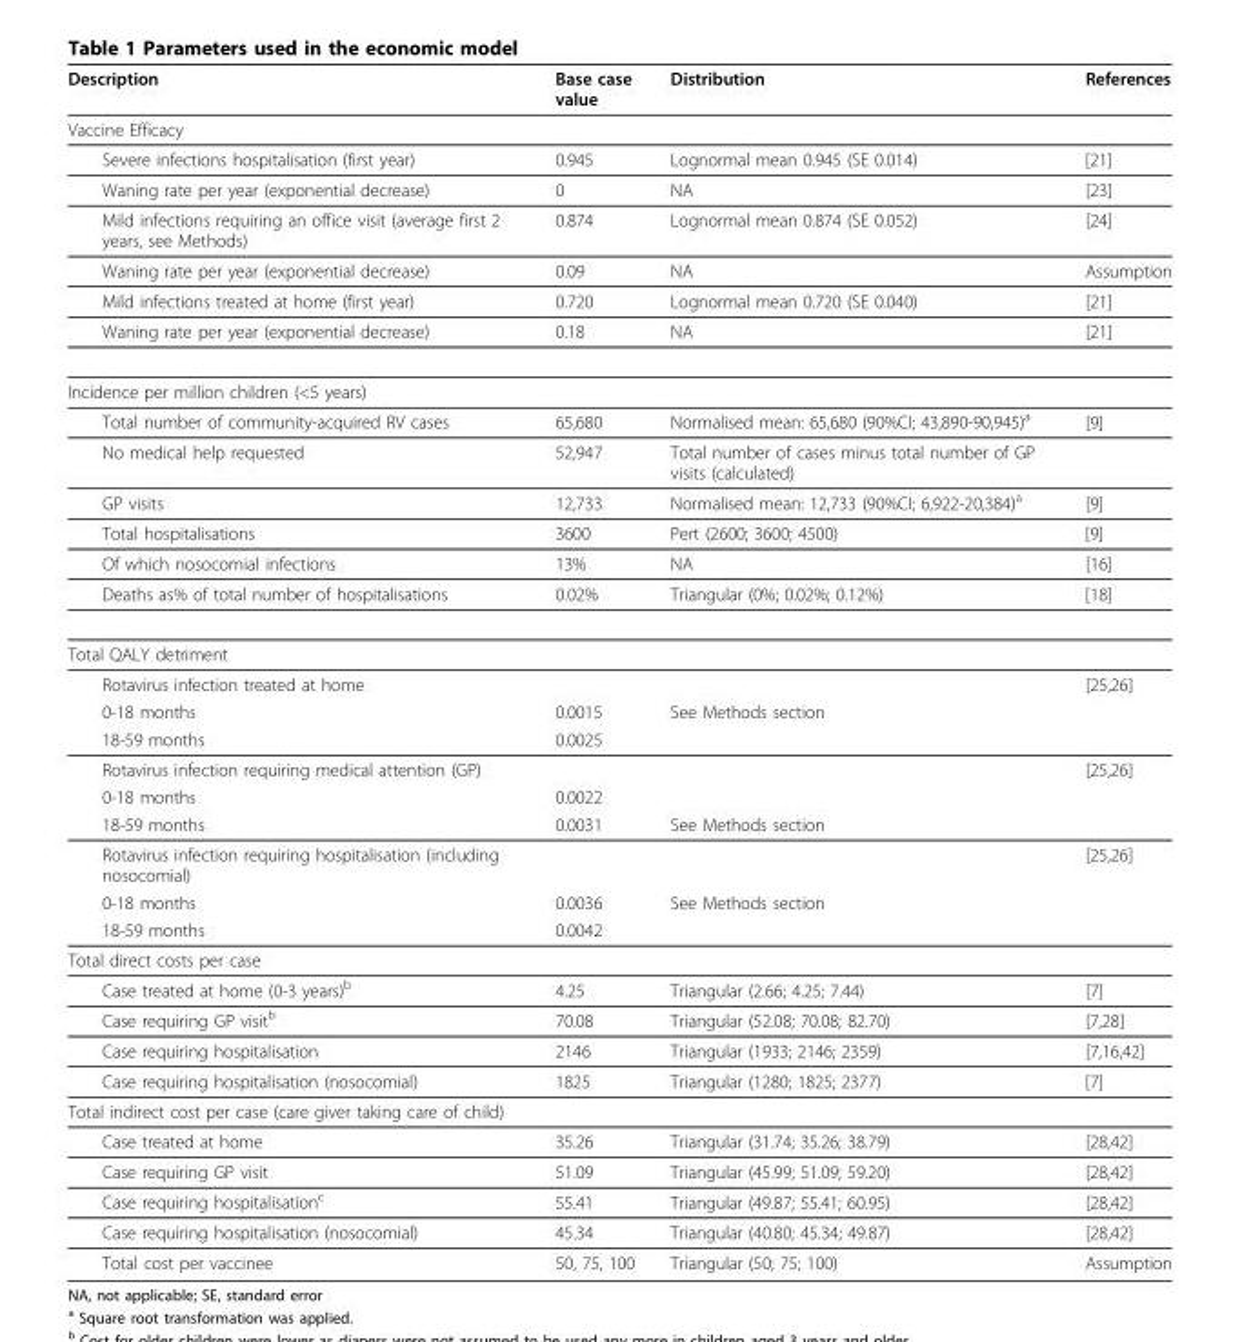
<table><thead><tr><td>Description</td><td>Base case value</td><td>Distribution</td><td>References</td></tr></thead><tbody><tr><td colspan="4">Vaccine Efficacy</td></tr><tr><td>Severe infections hospitalisation (first year)</td><td>0.945</td><td>Lognormal mean 0.945 (SE 0.014)</td><td>[21]</td></tr><tr><td>Waning rate per year (exponential decrease)</td><td>0</td><td>NA</td><td>[23]</td></tr><tr><td>Mild infections requiring an office visit (average first 2 years, see Methods)</td><td>0.874</td><td>Lognormal mean 0.874 (SE 0.052)</td><td>[24]</td></tr><tr><td>Waning rate per year (exponential decrease)</td><td>0.09</td><td>NA</td><td>Assumption</td></tr><tr><td>Mild infections treated at home (first year)</td><td>0.720</td><td>Lognormal mean 0.720 (SE 0.040)</td><td>[21]</td></tr><tr><td>Waning rate per year (exponential decrease)</td><td>0.18</td><td>NA</td><td>[21]</td></tr><tr><td colspan="4">Incidence per million children (&lt;5 years)</td></tr><tr><td>Total number of community-acquired RV cases</td><td>65,680</td><td>Normalised mean: 65,680 (90%CI; 43,890-90,945)a</td><td>[9]</td></tr><tr><td>No medical help requested</td><td>52,947</td><td>Total number of cases minus total number of GP visits (calculated)</td><td></td></tr><tr><td>GP visits</td><td>12,733</td><td>Normalised mean: 12,733 (90%CI; 6,922-20,384)a</td><td>[9]</td></tr><tr><td>Total hospitalisations</td><td>3600</td><td>Pert (2600; 3600; 4500)</td><td>[9]</td></tr><tr><td>Of which nosocomial infections</td><td>13%</td><td>NA</td><td>[16]</td></tr><tr><td>Deaths as% of total number of hospitalisations</td><td>0.02%</td><td>Triangular (0%; 0.02%; 0.12%)</td><td>[18]</td></tr><tr><td colspan="4">Total QALY detriment</td></tr><tr><td>Rotavirus infection treated at home</td><td></td><td></td><td>[25,26]</td></tr><tr><td>0-18 months</td><td>0.0015</td><td>See Methods section</td><td></td></tr><tr><td>18-59 months</td><td>0.0025</td><td></td><td></td></tr><tr><td>Rotavirus infection requiring medical attention (GP)</td><td></td><td></td><td>[25,26]</td></tr><tr><td>0-18 months</td><td>0.0022</td><td></td><td></td></tr><tr><td>18-59 months</td><td>0.0031</td><td>See Methods section</td><td></td></tr><tr><td>Rotavirus infection requiring hospitalisation (including nosocomial)</td><td></td><td></td><td>[25,26]</td></tr><tr><td>0-18 months</td><td>0.0036</td><td>See Methods section</td><td></td></tr><tr><td>18-59 months</td><td>0.0042</td><td></td><td></td></tr><tr><td colspan="4">Total direct costs per case</td></tr><tr><td>Case treated at home (0-3 years)<sup>b</sup></td><td>4.25</td><td>Triangular (2.66; 4.25; 7.44)</td><td>[7]</td></tr><tr><td>Case requiring GP visit<sup>b</sup></td><td>70.08</td><td>Triangular (52.08; 70.08; 82.70)</td><td>[7,28]</td></tr><tr><td>Case requiring hospitalisation</td><td>2146</td><td>Triangular (1933; 2146; 2359)</td><td>[7,16,42]</td></tr><tr><td>Case requiring hospitalisation (nosocomial)</td><td>1825</td><td>Triangular (1280; 1825; 2377)</td><td>[7]</td></tr><tr><td colspan="4">Total indirect cost per case (care giver taking care of child)</td></tr><tr><td>Case treated at home</td><td>35.26</td><td>Triangular (31.74; 35.26; 38.79)</td><td>[28,42]</td></tr><tr><td>Case requiring GP visit</td><td>51.09</td><td>Triangular (45.99; 51.09; 59.20)</td><td>[28,42]</td></tr><tr><td>Case requiring hospitalisation<sup>c</sup></td><td>55.41</td><td>Triangular (49.87; 55.41; 60.95)</td><td>[28,42]</td></tr><tr><td>Case requiring hospitalisation (nosocomial)</td><td>45.34</td><td>Triangular (40.80; 45.34; 49.87)</td><td>[28,42]</td></tr><tr><td>Total cost per vaccinee</td><td>50, 75, 100</td><td>Triangular (50; 75; 100)</td><td>Assumption</td></tr></tbody></table>